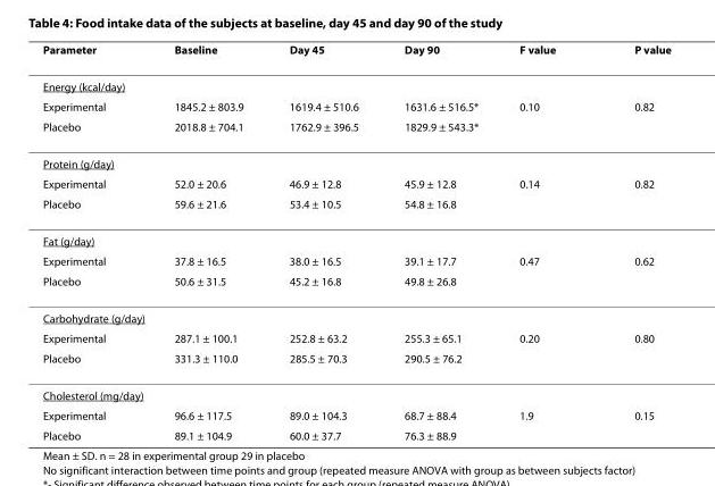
<table><thead><tr><td>Parameter</td><td>Baseline</td><td>Day 45</td><td>Day 90</td><td>F value</td><td>P value</td></tr></thead><tbody><tr><td colspan="6">Energy (kcal/day)</td></tr><tr><td>Experimental</td><td>1845.2 ± 803.9</td><td>1619.4 ± 510.6</td><td>1631.6 ± 516.5*</td><td>0.10</td><td>0.82</td></tr><tr><td>Placebo</td><td>2018.8 ± 704.1</td><td>1762.9 ± 396.5</td><td>1829.9 ± 543.3*</td><td></td><td></td></tr><tr><td colspan="6">Protein (g/day)</td></tr><tr><td>Experimental</td><td>52.0 ± 20.6</td><td>46.9 ± 12.8</td><td>45.9 ± 12.8</td><td>0.14</td><td>0.82</td></tr><tr><td>Placebo</td><td>59.6 ± 21.6</td><td>53.4 ± 10.5</td><td>54.8 ± 16.8</td><td></td><td></td></tr><tr><td colspan="6">Fat (g/day)</td></tr><tr><td>Experimental</td><td>37.8 ± 16.5</td><td>38.0 ± 16.5</td><td>39.1 ± 17.7</td><td>0.47</td><td>0.62</td></tr><tr><td>Placebo</td><td>50.6 ± 31.5</td><td>45.2 ± 16.8</td><td>49.8 ± 26.8</td><td></td><td></td></tr><tr><td colspan="6">Carbohydrate (g/day)</td></tr><tr><td>Experimental</td><td>287.1 ± 100.1</td><td>252.8 ± 63.2</td><td>255.3 ± 65.1</td><td>0.20</td><td>0.80</td></tr><tr><td>Placebo</td><td>331.3 ± 110.0</td><td>285.5 ± 70.3</td><td>290.5 ± 76.2</td><td></td><td></td></tr><tr><td colspan="6">Cholesterol (mg/day)</td></tr><tr><td>Experimental</td><td>96.6 ± 117.5</td><td>89.0 ± 104.3</td><td>68.7 ± 88.4</td><td>1.9</td><td>0.15</td></tr><tr><td>Placebo</td><td>89.1 ± 104.9</td><td>60.0 ± 37.7</td><td>76.3 ± 88.9</td><td></td><td></td></tr></tbody></table>